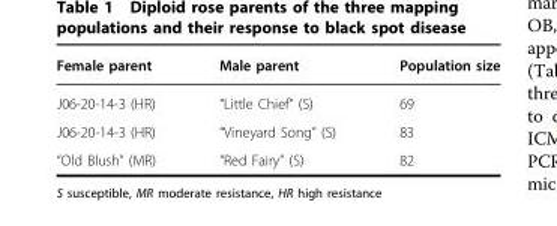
<table><thead><tr><td>Female parent</td><td>Male parent</td><td>Population size</td></tr></thead><tbody><tr><td>J06-20-14-3 (HR)</td><td>“Little Chief” (S)</td><td>69</td></tr><tr><td>J06-20-14-3 (HR)</td><td>“Vineyard Song” (S)</td><td>83</td></tr><tr><td>“Old Blush” (MR)</td><td>“Red Fairy” (S)</td><td>82</td></tr></tbody></table>